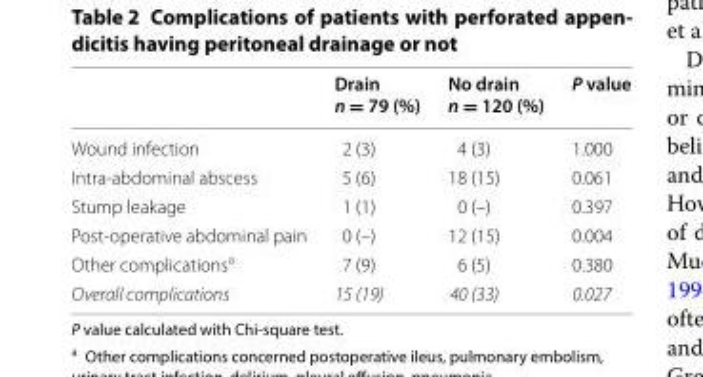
<table><thead><tr><td></td><td>Drain n = 79 (%)</td><td>No drain n = 120 (%)</td><td>P value</td></tr></thead><tbody><tr><td>Wound infection</td><td>2 (3)</td><td>4 (3)</td><td>1.000</td></tr><tr><td>Intra-abdominal abscess</td><td>5 (6)</td><td>18 (15)</td><td>0.061</td></tr><tr><td>Stump leakage</td><td>1 (1)</td><td>0 (–)</td><td>0.397</td></tr><tr><td>Post-operative abdominal pain</td><td>0 (–)</td><td>12 (15)</td><td>0.004</td></tr><tr><td>Other complications<sup>a</sup></td><td>7 (9)</td><td>6 (5)</td><td>0.380</td></tr><tr><td>Overall complications</td><td>15 (19)</td><td>40 (33)</td><td>0.027</td></tr></tbody></table>